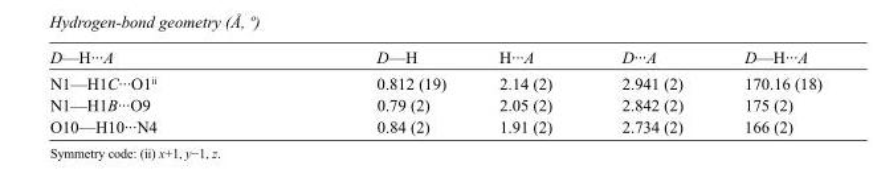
<table><tbody><tr><td>D—H···A</td><td>D—H</td><td>H···A</td><td>D···A</td><td>D—H···A</td></tr><tr><td>N1—H1C···O1<sup>ii</sup></td><td>0.812 (19)</td><td>2.14 (2)</td><td>2.941 (2)</td><td>170.16 (18)</td></tr><tr><td>N1—H1B···O9</td><td>0.79 (2)</td><td>2.05 (2)</td><td>2.842 (2)</td><td>175 (2)</td></tr><tr><td>O10—H10···N4</td><td>0.84 (2)</td><td>1.91 (2)</td><td>2.734 (2)</td><td>166 (2)</td></tr></tbody></table>